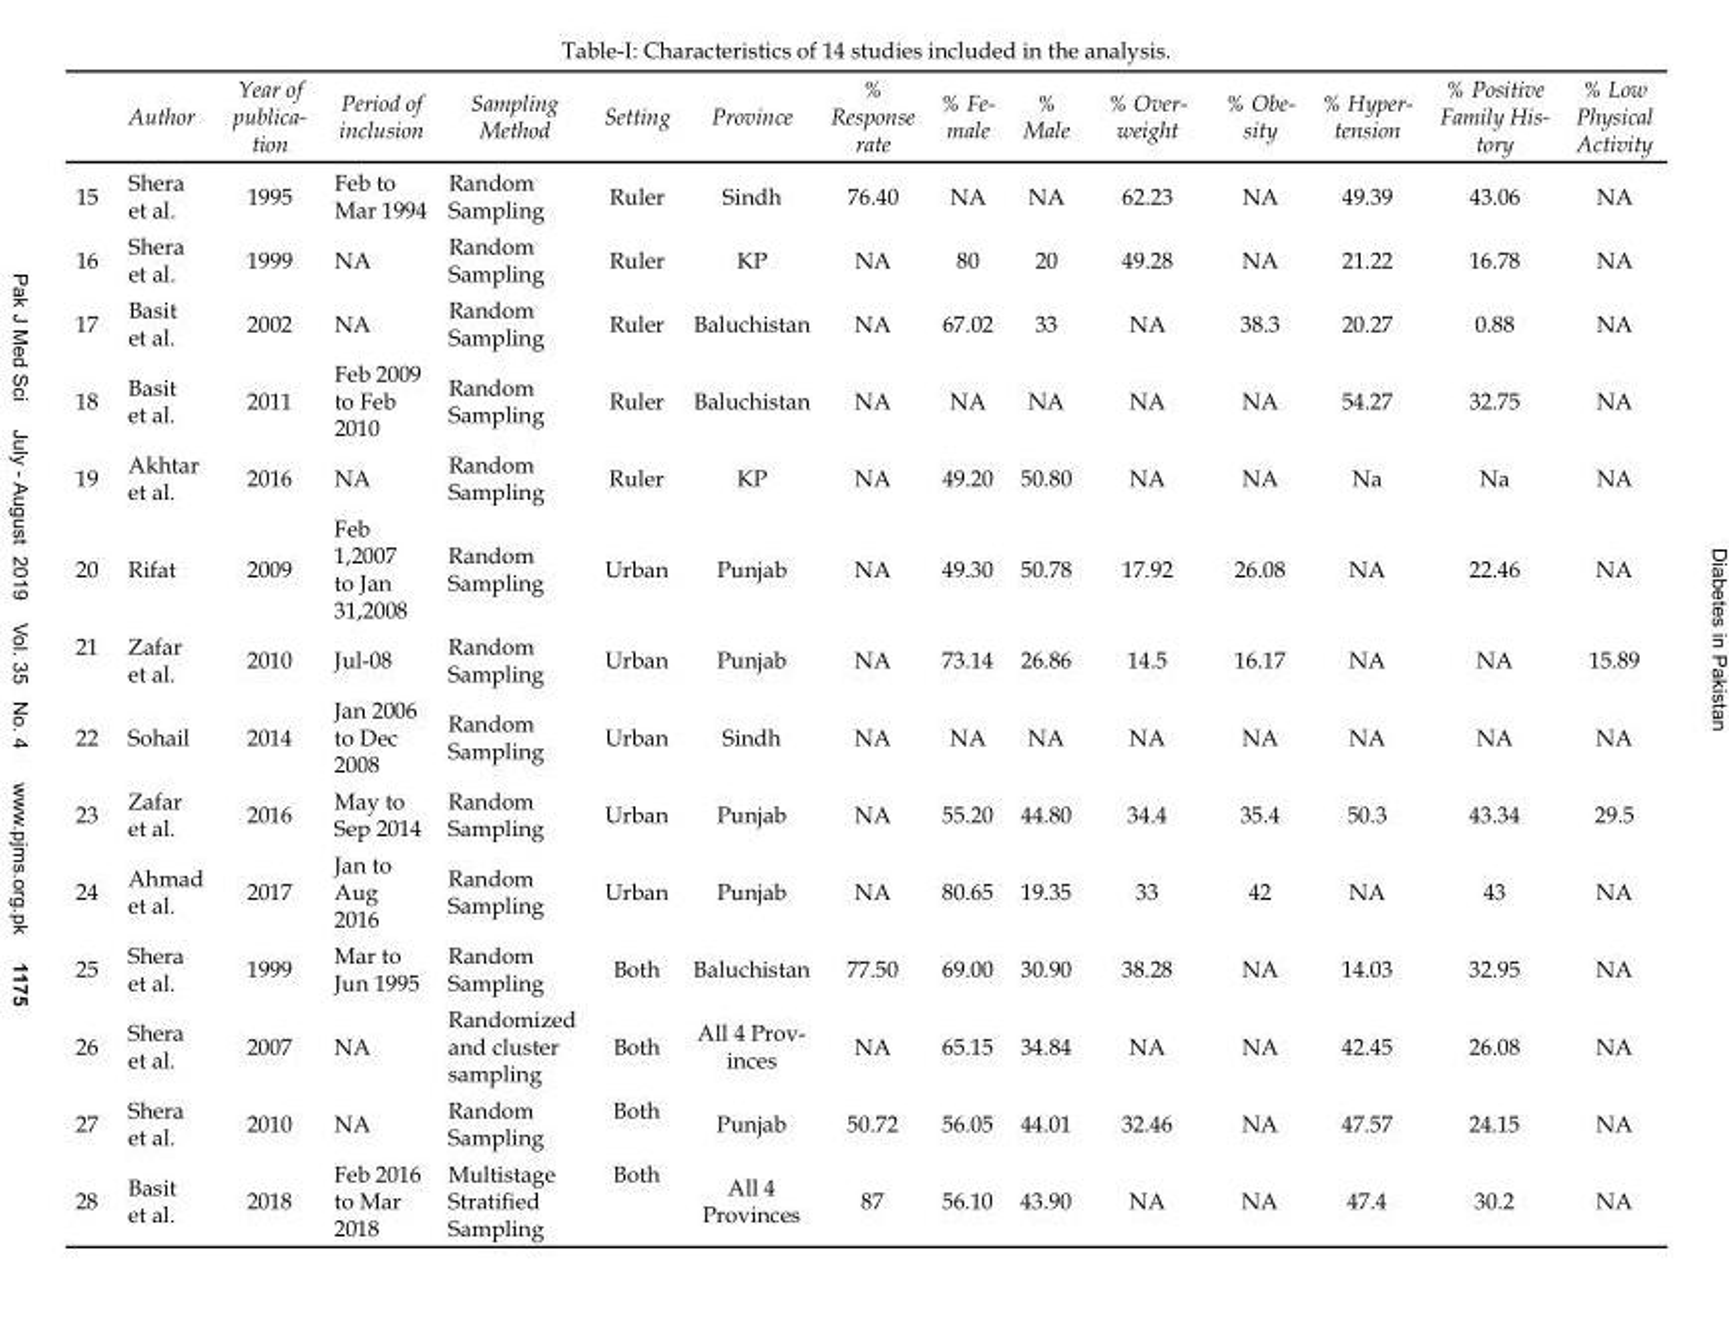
<table><thead><tr><td></td><td>Author</td><td>Year of publica- tion</td><td>Period of inclusion</td><td>Sampling Method</td><td>Setting</td><td>Province</td><td>% Response rate</td><td>% Fe- male</td><td>% Male</td><td>% Over- weight</td><td>% Obe- sity</td><td>% Hyper- tension</td><td>% Positive Family His- tory</td><td>% Low Physical Activity</td></tr></thead><tbody><tr><td>15</td><td>Shera et al.</td><td>1995</td><td>Feb to Mar 1994</td><td>Random Sampling</td><td>Ruler</td><td>Sindh</td><td>76.40</td><td>NA</td><td>NA</td><td>62.23</td><td>NA</td><td>49.39</td><td>43.06</td><td>NA</td></tr><tr><td>16</td><td>Shera et al.</td><td>1999</td><td>NA</td><td>Random Sampling</td><td>Ruler</td><td>KP</td><td>NA</td><td>80</td><td>20</td><td>49.28</td><td>NA</td><td>21.22</td><td>16.78</td><td>NA</td></tr><tr><td>17</td><td>Basit et al.</td><td>2002</td><td>NA</td><td>Random Sampling</td><td>Ruler</td><td>Baluchistan</td><td>NA</td><td>67.02</td><td>33</td><td>NA</td><td>38.3</td><td>20.27</td><td>0.88</td><td>NA</td></tr><tr><td>18</td><td>Basit et al.</td><td>2011</td><td>Feb 2009 to Feb 2010</td><td>Random Sampling</td><td>Ruler</td><td>Baluchistan</td><td>NA</td><td>NA</td><td>NA</td><td>NA</td><td>NA</td><td>54.27</td><td>32.75</td><td>NA</td></tr><tr><td>19</td><td>Akhtar et al.</td><td>2016</td><td>NA</td><td>Random Sampling</td><td>Ruler</td><td>KP</td><td>NA</td><td>49.20</td><td>50.80</td><td>NA</td><td>NA</td><td>Na</td><td>Na</td><td>NA</td></tr><tr><td>20</td><td>Rifat</td><td>2009</td><td>Feb 1,2007 to Jan 31,2008</td><td>Random Sampling</td><td>Urban</td><td>Punjab</td><td>NA</td><td>49.30</td><td>50.78</td><td>17.92</td><td>26.08</td><td>NA</td><td>22.46</td><td>NA</td></tr><tr><td>21</td><td>Zafar et al.</td><td>2010</td><td>Jul-08</td><td>Random Sampling</td><td>Urban</td><td>Punjab</td><td>NA</td><td>73.14</td><td>26.86</td><td>14.5</td><td>16.17</td><td>NA</td><td>NA</td><td>15.89</td></tr><tr><td>22</td><td>Sohail</td><td>2014</td><td>Jan 2006 to Dec 2008</td><td>Random Sampling</td><td>Urban</td><td>Sindh</td><td>NA</td><td>NA</td><td>NA</td><td>NA</td><td>NA</td><td>NA</td><td>NA</td><td>NA</td></tr><tr><td>23</td><td>Zafar et al.</td><td>2016</td><td>May to Sep 2014</td><td>Random Sampling</td><td>Urban</td><td>Punjab</td><td>NA</td><td>55.20</td><td>44.80</td><td>34.4</td><td>35.4</td><td>50.3</td><td>43.34</td><td>29.5</td></tr><tr><td>24</td><td>Ahmad et al.</td><td>2017</td><td>Jan to Aug 2016</td><td>Random Sampling</td><td>Urban</td><td>Punjab</td><td>NA</td><td>80.65</td><td>19.35</td><td>33</td><td>42</td><td>NA</td><td>43</td><td>NA</td></tr><tr><td>25</td><td>Shera et al.</td><td>1999</td><td>Mar to Jun 1995</td><td>Random Sampling</td><td>Both</td><td>Baluchistan</td><td>77.50</td><td>69.00</td><td>30.90</td><td>38.28</td><td>NA</td><td>14.03</td><td>32.95</td><td>NA</td></tr><tr><td>26</td><td>Shera et al.</td><td>2007</td><td>NA</td><td>Randomized and cluster sampling</td><td>Both</td><td>All 4 Prov- inces</td><td>NA</td><td>65.15</td><td>34.84</td><td>NA</td><td>NA</td><td>42.45</td><td>26.08</td><td>NA</td></tr><tr><td>27</td><td>Shera et al.</td><td>2010</td><td>NA</td><td>Random Sampling</td><td>Both</td><td>Punjab</td><td>50.72</td><td>56.05</td><td>44.01</td><td>32.46</td><td>NA</td><td>47.57</td><td>24.15</td><td>NA</td></tr><tr><td>28</td><td>Basit et al.</td><td>2018</td><td>Feb 2016 to Mar 2018</td><td>Multistage Stratified Sampling</td><td>Both</td><td>All 4 Provinces</td><td>87</td><td>56.10</td><td>43.90</td><td>NA</td><td>NA</td><td>47.4</td><td>30.2</td><td>NA</td></tr></tbody></table>